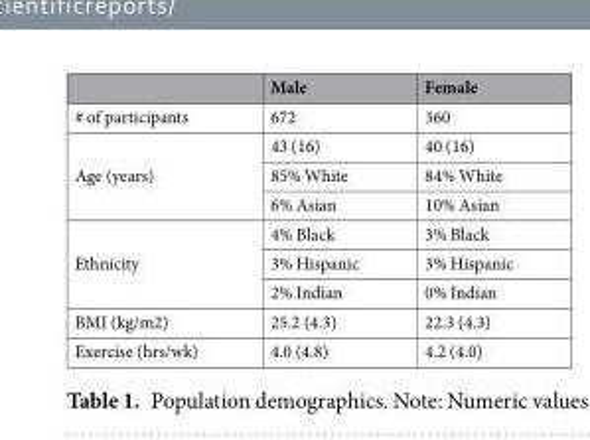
<table><thead><tr><td></td><td>Male</td><td>Female</td></tr></thead><tbody><tr><td># of participants</td><td>672</td><td>360</td></tr><tr><td rowspan="3">Age (years)</td><td>43 (16)</td><td>40 (16)</td></tr><tr><td>85% White</td><td>84% White</td></tr><tr><td>6% Asian</td><td>10% Asian</td></tr><tr><td rowspan="3">Ethnicity</td><td>4% Black</td><td>3% Black</td></tr><tr><td>3% Hispanic</td><td>3% Hispanic</td></tr><tr><td>2% Indian</td><td>0% Indian</td></tr><tr><td>BMI (kg/m2)</td><td>25.2 (4.3)</td><td>22.3 (4.3)</td></tr><tr><td>Exercise (hrs/wk)</td><td>4.0 (4.8)</td><td>4.2 (4.0)</td></tr></tbody></table>